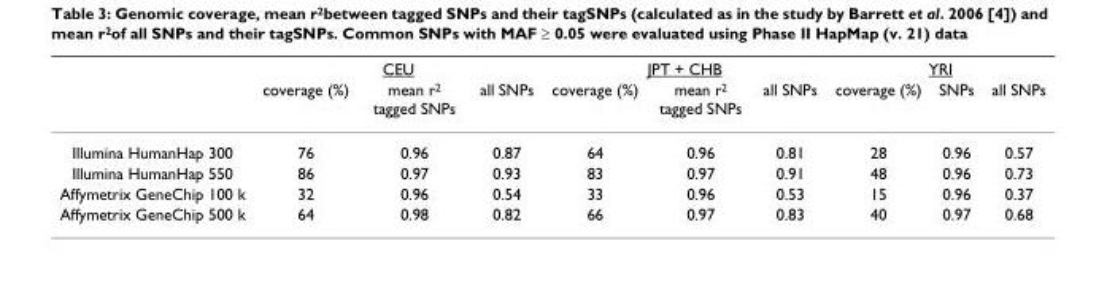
<table><thead><tr><td rowspan="2"></td><td colspan="3">CEU</td><td colspan="3">JPT + CHB</td><td colspan="3">YRI</td></tr><tr><td>coverage (%)</td><td>mean r<sup>2</sup> tagged SNPs</td><td>all SNPs</td><td>coverage (%)</td><td>mean r<sup>2</sup> tagged SNPs</td><td>all SNPs</td><td>coverage (%)</td><td>SNPs</td><td>all SNPs</td></tr></thead><tbody><tr><td>Illumina HumanHap 300</td><td>76</td><td>0.96</td><td>0.87</td><td>64</td><td>0.96</td><td>0.81</td><td>28</td><td>0.96</td><td>0.57</td></tr><tr><td>Illumina HumanHap 550</td><td>86</td><td>0.97</td><td>0.93</td><td>83</td><td>0.97</td><td>0.91</td><td>48</td><td>0.96</td><td>0.73</td></tr><tr><td>Affymetrix GeneChip 100 k</td><td>32</td><td>0.96</td><td>0.54</td><td>33</td><td>0.96</td><td>0.53</td><td>15</td><td>0.96</td><td>0.37</td></tr><tr><td>Affymetrix GeneChip 500 k</td><td>64</td><td>0.98</td><td>0.82</td><td>66</td><td>0.97</td><td>0.83</td><td>40</td><td>0.97</td><td>0.68</td></tr></tbody></table>